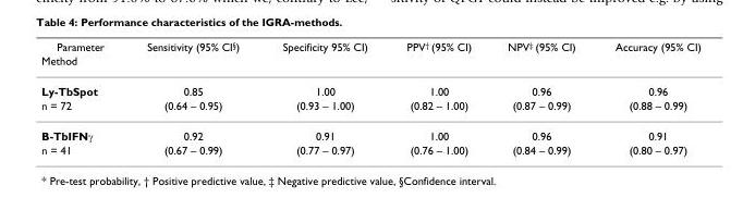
<table><thead><tr><td rowspan="2">Parameter Method</td><td rowspan="2">Sensitivity (95% CI<sup>§</sup>)</td><td rowspan="2">Specificity 95% CI)</td><td rowspan="2">PPV<sup>†</sup> (95% CI)</td><td rowspan="2">NPV<sup>‡</sup> (95% CI)</td><td rowspan="2">Accuracy (95% CI)</td></tr><tr></tr></thead><tbody><tr><td>Ly-TbSpot</td><td>0.85</td><td>1.00</td><td>1.00</td><td>0.96</td><td>0.96</td></tr><tr><td>n = 72</td><td>(0.64 – 0.95)</td><td>(0.93 – 1.00)</td><td>(0.82 – 1.00)</td><td>(0.87 – 0.99)</td><td>(0.88 – 0.99)</td></tr><tr><td>B-TbIFNγ</td><td>0.92</td><td>0.91</td><td>1.00</td><td>0.96</td><td>0.91</td></tr><tr><td>n = 41</td><td>(0.67 – 0.99)</td><td>(0.77 – 0.97)</td><td>(0.76 – 1.00)</td><td>(0.84 – 0.99)</td><td>(0.80 – 0.97)</td></tr></tbody></table>